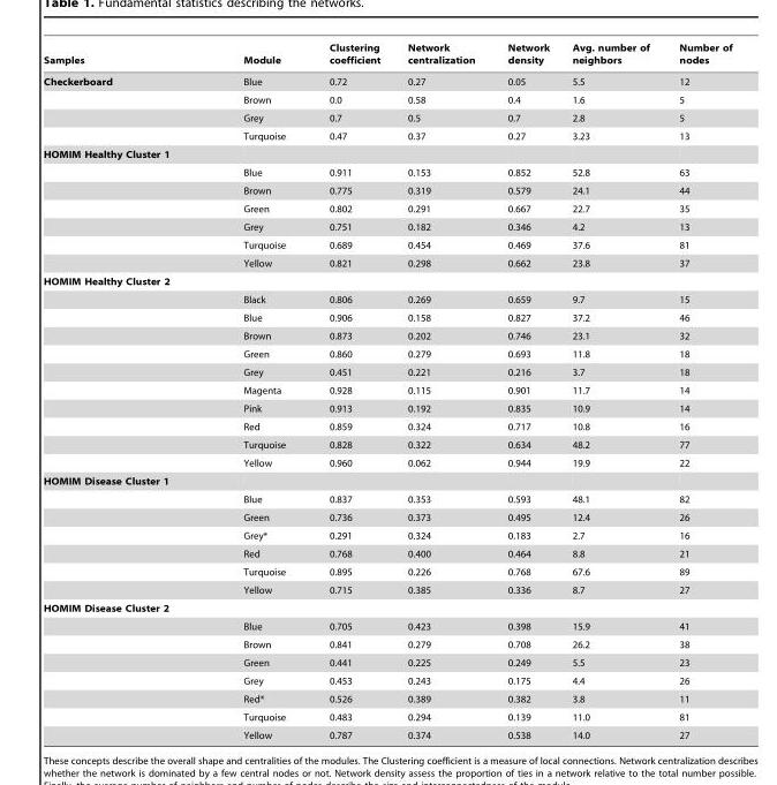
<table><thead><tr><td>Samples</td><td>Module</td><td>Clustering coefficient</td><td>Network centralization</td><td>Network density</td><td>Avg. number of neighbors</td><td>Number of nodes</td></tr></thead><tbody><tr><td rowspan="4">Checkerboard</td><td>Blue</td><td>0.72</td><td>0.27</td><td>0.05</td><td>5.5</td><td>12</td></tr><tr><td>Brown</td><td>0.0</td><td>0.58</td><td>0.4</td><td>1.6</td><td>5</td></tr><tr><td>Grey</td><td>0.7</td><td>0.5</td><td>0.7</td><td>2.8</td><td>5</td></tr><tr><td>Turquoise</td><td>0.47</td><td>0.37</td><td>0.27</td><td>3.23</td><td>13</td></tr><tr><td colspan="7">HOMIM Healthy Cluster 1</td></tr><tr><td></td><td>Blue</td><td>0.911</td><td>0.153</td><td>0.852</td><td>52.8</td><td>63</td></tr><tr><td></td><td>Brown</td><td>0.775</td><td>0.319</td><td>0.579</td><td>24.1</td><td>44</td></tr><tr><td></td><td>Green</td><td>0.802</td><td>0.291</td><td>0.667</td><td>22.7</td><td>35</td></tr><tr><td></td><td>Grey</td><td>0.751</td><td>0.182</td><td>0.346</td><td>4.2</td><td>13</td></tr><tr><td></td><td>Turquoise</td><td>0.689</td><td>0.454</td><td>0.469</td><td>37.6</td><td>81</td></tr><tr><td></td><td>Yellow</td><td>0.821</td><td>0.298</td><td>0.662</td><td>23.8</td><td>37</td></tr><tr><td colspan="7">HOMIM Healthy Cluster 2</td></tr><tr><td></td><td>Black</td><td>0.806</td><td>0.269</td><td>0.659</td><td>9.7</td><td>15</td></tr><tr><td></td><td>Blue</td><td>0.906</td><td>0.158</td><td>0.827</td><td>37.2</td><td>46</td></tr><tr><td></td><td>Brown</td><td>0.873</td><td>0.202</td><td>0.746</td><td>23.1</td><td>32</td></tr><tr><td></td><td>Green</td><td>0.860</td><td>0.279</td><td>0.693</td><td>11.8</td><td>18</td></tr><tr><td></td><td>Grey</td><td>0.451</td><td>0.221</td><td>0.216</td><td>3.7</td><td>18</td></tr><tr><td></td><td>Magenta</td><td>0.928</td><td>0.115</td><td>0.901</td><td>11.7</td><td>14</td></tr><tr><td></td><td>Pink</td><td>0.913</td><td>0.192</td><td>0.835</td><td>10.9</td><td>14</td></tr><tr><td></td><td>Red</td><td>0.859</td><td>0.324</td><td>0.717</td><td>10.8</td><td>16</td></tr><tr><td></td><td>Turquoise</td><td>0.828</td><td>0.322</td><td>0.634</td><td>48.2</td><td>77</td></tr><tr><td></td><td>Yellow</td><td>0.960</td><td>0.062</td><td>0.944</td><td>19.9</td><td>22</td></tr><tr><td colspan="7">HOMIM Disease Cluster 1</td></tr><tr><td></td><td>Blue</td><td>0.837</td><td>0.353</td><td>0.593</td><td>48.1</td><td>82</td></tr><tr><td></td><td>Green</td><td>0.736</td><td>0.373</td><td>0.495</td><td>12.4</td><td>26</td></tr><tr><td></td><td>Grey*</td><td>0.291</td><td>0.324</td><td>0.183</td><td>2.7</td><td>16</td></tr><tr><td></td><td>Red</td><td>0.768</td><td>0.400</td><td>0.464</td><td>8.8</td><td>21</td></tr><tr><td></td><td>Turquoise</td><td>0.895</td><td>0.226</td><td>0.768</td><td>67.6</td><td>89</td></tr><tr><td></td><td>Yellow</td><td>0.715</td><td>0.385</td><td>0.336</td><td>8.7</td><td>27</td></tr><tr><td colspan="7">HOMIM Disease Cluster 2</td></tr><tr><td></td><td>Blue</td><td>0.705</td><td>0.423</td><td>0.398</td><td>15.9</td><td>41</td></tr><tr><td></td><td>Brown</td><td>0.841</td><td>0.279</td><td>0.708</td><td>26.2</td><td>38</td></tr><tr><td></td><td>Green</td><td>0.441</td><td>0.225</td><td>0.249</td><td>5.5</td><td>23</td></tr><tr><td></td><td>Grey</td><td>0.453</td><td>0.243</td><td>0.175</td><td>4.4</td><td>26</td></tr><tr><td></td><td>Red*</td><td>0.526</td><td>0.389</td><td>0.382</td><td>3.8</td><td>11</td></tr><tr><td></td><td>Turquoise</td><td>0.483</td><td>0.294</td><td>0.139</td><td>11.0</td><td>81</td></tr><tr><td></td><td>Yellow</td><td>0.787</td><td>0.374</td><td>0.538</td><td>14.0</td><td>27</td></tr></tbody></table>